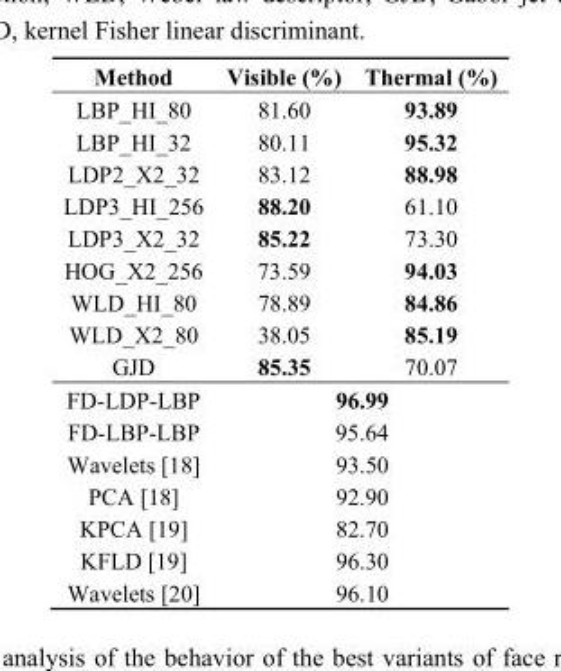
<table><thead><tr><td>Method</td><td>Visible (%)</td><td>Thermal (%)</td></tr></thead><tbody><tr><td>LBP_HI_80</td><td>81.60</td><td>93.89</td></tr><tr><td>LBP_HI_32</td><td>80.11</td><td>95.32</td></tr><tr><td>LDP2_X2_32</td><td>83.12</td><td>88.98</td></tr><tr><td>LDP3_HI_256</td><td>88.20</td><td>61.10</td></tr><tr><td>LDP3_X2_32</td><td>85.22</td><td>73.30</td></tr><tr><td>HOG_X2_256</td><td>73.59</td><td>94.03</td></tr><tr><td>WLD_HI_80</td><td>78.89</td><td>84.86</td></tr><tr><td>WLD_X2_80</td><td>38.05</td><td>85.19</td></tr><tr><td>GJD</td><td>85.35</td><td>70.07</td></tr><tr><td>FD-LDP-LBP</td><td colspan="2">96.99</td></tr><tr><td>FD-LBP-LBP</td><td colspan="2">95.64</td></tr><tr><td>Wavelets [18]</td><td colspan="2">93.50</td></tr><tr><td>PCA [18]</td><td colspan="2">92.90</td></tr><tr><td>KPCA [19]</td><td colspan="2">82.70</td></tr><tr><td>KFLD [19]</td><td colspan="2">96.30</td></tr><tr><td>Wavelets [20]</td><td colspan="2">96.10</td></tr></tbody></table>